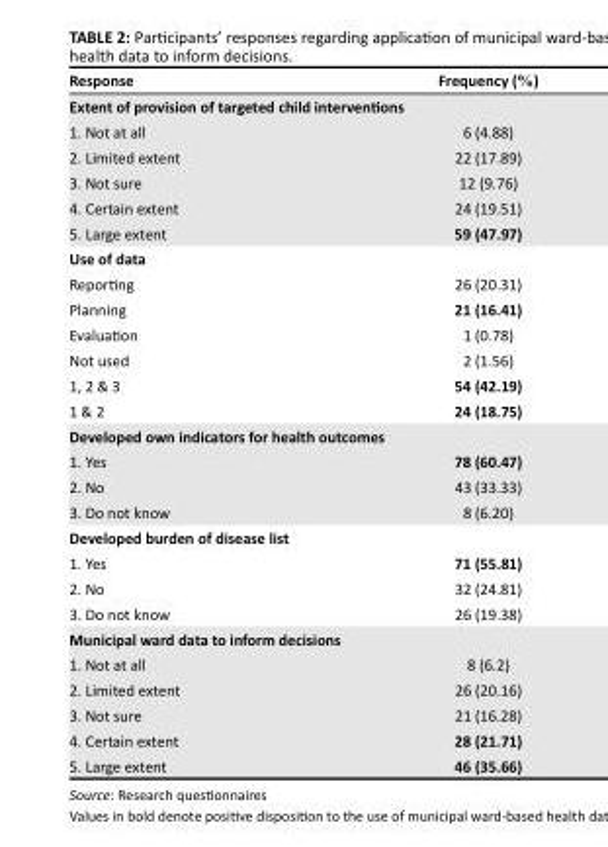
<table><thead><tr><td>Response</td><td>Frequency (%)</td></tr></thead><tbody><tr><td colspan="2">Extent of provision of targeted child interventions</td></tr><tr><td>1. Not at all</td><td>6 (4.88)</td></tr><tr><td>2. Limited extent</td><td>22 (17.89)</td></tr><tr><td>3. Not sure</td><td>12 (9.76)</td></tr><tr><td>4. Certain extent</td><td>24 (19.51)</td></tr><tr><td>5. Large extent</td><td>59 (47.97)</td></tr><tr><td colspan="2">Use of data</td></tr><tr><td>Reporting</td><td>26 (20.31)</td></tr><tr><td>Planning</td><td>21 (16.41)</td></tr><tr><td>Evaluation</td><td>1 (0.78)</td></tr><tr><td>Not used</td><td>2 (1.56)</td></tr><tr><td>1, 2 &amp; 3</td><td>54 (42.19)</td></tr><tr><td>1 &amp; 2</td><td>24 (18.75)</td></tr><tr><td colspan="2">Developed own indicators for health outcomes</td></tr><tr><td>1. Yes</td><td>78 (60.47)</td></tr><tr><td>2. No</td><td>43 (33.33)</td></tr><tr><td>3. Do not know</td><td>8 (6.20)</td></tr><tr><td colspan="2">Developed burden of disease list</td></tr><tr><td>1. Yes</td><td>71 (55.81)</td></tr><tr><td>2. No</td><td>32 (24.81)</td></tr><tr><td>3. Do not know</td><td>26 (19.38)</td></tr><tr><td colspan="2">Municipal ward data to inform decisions</td></tr><tr><td>1. Not at all</td><td>8 (6.2)</td></tr><tr><td>2. Limited extent</td><td>26 (20.16)</td></tr><tr><td>3. Not sure</td><td>21 (16.28)</td></tr><tr><td>4. Certain extent</td><td>28 (21.71)</td></tr><tr><td>5. Large extent</td><td>46 (35.66)</td></tr></tbody></table>